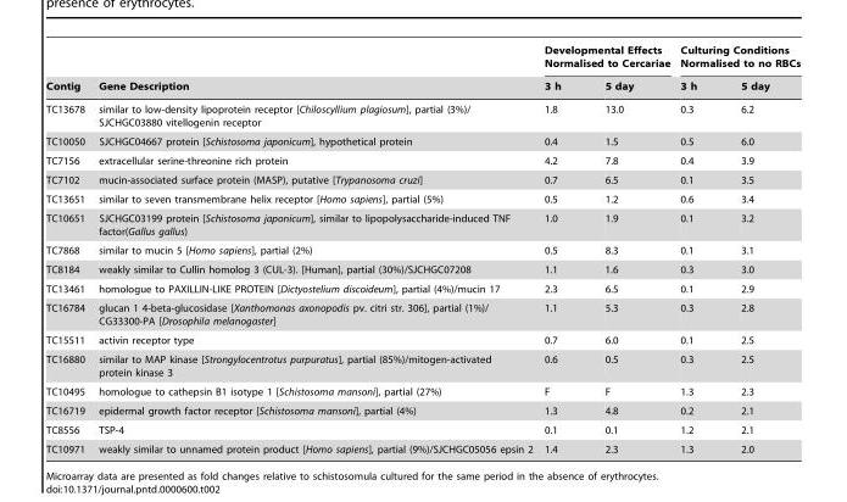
<table><thead><tr><td rowspan="2">Contig</td><td rowspan="2">Gene Description</td><td colspan="2">Developmental Effects Normalised to Cercariae</td><td colspan="2">Culturing Conditions Normalised to no RBCs</td></tr><tr><td>3 h</td><td>5 day</td><td>3 h</td><td>5 day</td></tr></thead><tbody><tr><td>TC13678</td><td>similar to low-density lipoprotein receptor [Chiloscyllium plagiosum], partial (3%)/ SJCHGC03880 vitellogenin receptor</td><td>1.8</td><td>13.0</td><td>0.3</td><td>6.2</td></tr><tr><td>TC10050</td><td>SJCHGC04667 protein [Schistosoma japonicum], hypothetical protein</td><td>0.4</td><td>1.5</td><td>0.5</td><td>6.0</td></tr><tr><td>TC7156</td><td>extracellular serine-threonine rich protein</td><td>4.2</td><td>7.8</td><td>0.4</td><td>3.9</td></tr><tr><td>TC7102</td><td>mucin-associated surface protein (MASP), putative [Trypanosoma cruzi]</td><td>0.7</td><td>6.5</td><td>0.1</td><td>3.5</td></tr><tr><td>TC13651</td><td>similar to seven transmembrane helix receptor [Homo sapiens], partial (5%)</td><td>0.5</td><td>1.2</td><td>0.6</td><td>3.4</td></tr><tr><td>TC10651</td><td>SJCHGC03199 protein [Schistosoma japonicum], similar to lipopolysaccharide-induced TNF factor(Gallus gallus)</td><td>1.0</td><td>1.9</td><td>0.1</td><td>3.2</td></tr><tr><td>TC7868</td><td>similar to mucin 5 [Homo sapiens], partial (2%)</td><td>0.5</td><td>8.3</td><td>0.1</td><td>3.1</td></tr><tr><td>TC8184</td><td>weakly similar to Cullin homolog 3 (CUL-3). [Human], partial (30%)/SJCHGC07208</td><td>1.1</td><td>1.6</td><td>0.3</td><td>3.0</td></tr><tr><td>TC13461</td><td>homologue to PAXILLIN-LIKE PROTEIN [Dictyostelium discoideum], partial (4%)/mucin 17</td><td>2.3</td><td>6.5</td><td>0.1</td><td>2.9</td></tr><tr><td>TC16784</td><td>glucan 1 4-beta-glucosidase [Xanthomonas axonopodis pv. citri str. 306], partial (1%)/ CG33300-PA [Drosophila melanogaster]</td><td>1.1</td><td>5.3</td><td>0.3</td><td>2.8</td></tr><tr><td>TC15511</td><td>activin receptor type</td><td>0.7</td><td>6.0</td><td>0.1</td><td>2.5</td></tr><tr><td>TC16880</td><td>similar to MAP kinase [Strongylocentrotus purpuratus], partial (85%)/mitogen-activated protein kinase 3</td><td>0.6</td><td>0.5</td><td>0.3</td><td>2.5</td></tr><tr><td>TC10495</td><td>homologue to cathepsin B1 isotype 1 [Schistosoma mansoni], partial (27%)</td><td>F</td><td>F</td><td>1.3</td><td>2.3</td></tr><tr><td>TC16719</td><td>epidermal growth factor receptor [Schistosoma mansoni], partial (4%)</td><td>1.3</td><td>4.8</td><td>0.2</td><td>2.1</td></tr><tr><td>TC8556</td><td>TSP-4</td><td>0.1</td><td>0.1</td><td>1.2</td><td>2.1</td></tr><tr><td>TC10971</td><td>weakly similar to unnamed protein product [Homo sapiens], partial (9%)/SJCHGC05056 epsin 2</td><td>1.4</td><td>2.3</td><td>1.3</td><td>2.0</td></tr></tbody></table>